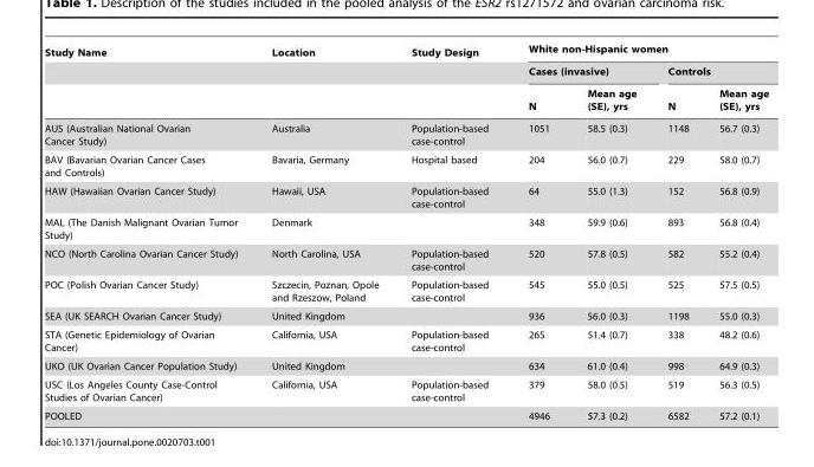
<table><thead><tr><td rowspan="3">Study Name</td><td rowspan="3">Location</td><td rowspan="3">Study Design</td><td colspan="4">White non-Hispanic women</td></tr><tr><td colspan="2">Cases (invasive)</td><td colspan="2">Controls</td></tr><tr><td>N</td><td>Mean age (SE), yrs</td><td>N</td><td>Mean age (SE), yrs</td></tr></thead><tbody><tr><td>AUS (Australian National Ovarian Cancer Study)</td><td>Australia</td><td>Population-based case-control</td><td>1051</td><td>58.5 (0.3)</td><td>1148</td><td>56.7 (0.3)</td></tr><tr><td>BAV (Bavarian Ovarian Cancer Cases and Controls)</td><td>Bavaria, Germany</td><td>Hospital based</td><td>204</td><td>56.0 (0.7)</td><td>229</td><td>58.0 (0.7)</td></tr><tr><td>HAW (Hawaiian Ovarian Cancer Study)</td><td>Hawaii, USA</td><td>Population-based case-control</td><td>64</td><td>55.0 (1.3)</td><td>152</td><td>56.8 (0.9)</td></tr><tr><td>MAL (The Danish Malignant Ovarian Tumor Study)</td><td>Denmark</td><td></td><td>348</td><td>59.9 (0.6)</td><td>893</td><td>56.8 (0.4)</td></tr><tr><td>NCO (North Carolina Ovarian Cancer Study)</td><td>North Carolina, USA</td><td>Population-based case-control</td><td>520</td><td>57.8 (0.5)</td><td>582</td><td>55.2 (0.4)</td></tr><tr><td>POC (Polish Ovarian Cancer Study)</td><td>Szczecin, Poznan, Opole and Rzeszow, Poland</td><td>Population-based case-control</td><td>545</td><td>55.0 (0.5)</td><td>525</td><td>57.5 (0.5)</td></tr><tr><td>SEA (UK SEARCH Ovarian Cancer Study)</td><td>United Kingdom</td><td></td><td>936</td><td>56.0 (0.3)</td><td>1198</td><td>55.0 (0.3)</td></tr><tr><td>STA (Genetic Epidemiology of Ovarian Cancer)</td><td>California, USA</td><td>Population-based case-control</td><td>265</td><td>51.4 (0.7)</td><td>338</td><td>48.2 (0.6)</td></tr><tr><td>UKO (UK Ovarian Cancer Population Study)</td><td>United Kingdom</td><td></td><td>634</td><td>61.0 (0.4)</td><td>998</td><td>64.9 (0.3)</td></tr><tr><td>USC (Los Angeles County Case-Control Studies of Ovarian Cancer)</td><td>California, USA</td><td>Population-based case-control</td><td>379</td><td>58.0 (0.5)</td><td>519</td><td>56.3 (0.5)</td></tr><tr><td>POOLED</td><td></td><td></td><td>4946</td><td>57.3 (0.2)</td><td>6582</td><td>57.2 (0.1)</td></tr></tbody></table>